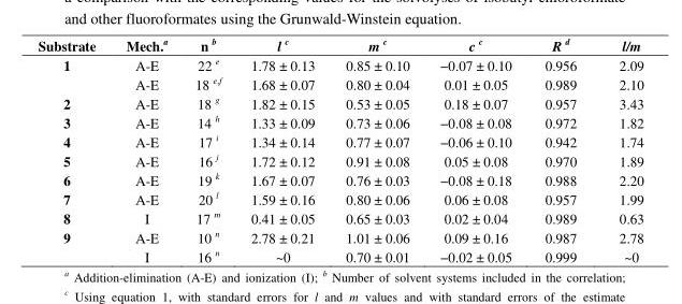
<table><thead><tr><td>Substrate</td><td>Mech.<sup>a</sup></td><td>n b</td><td>l <sup>c</sup></td><td>m <sup>c</sup></td><td>c <sup>c</sup></td><td>R <sup>d</sup></td><td>l/m</td></tr></thead><tbody><tr><td rowspan="2">1</td><td>A-E</td><td>22 e</td><td>1.78 ± 0.13</td><td>0.85 ± 0.10</td><td>−0.07 ± 0.10</td><td>0.956</td><td>2.09</td></tr><tr><td>A-E</td><td>18 e,f</td><td>1.68 ± 0.07</td><td>0.80 ± 0.04</td><td>0.01 ± 0.05</td><td>0.989</td><td>2.10</td></tr><tr><td>2</td><td>A-E</td><td>18 g</td><td>1.82 ± 0.15</td><td>0.53 ± 0.05</td><td>0.18 ± 0.07</td><td>0.957</td><td>3.43</td></tr><tr><td>3</td><td>A-E</td><td>14 h</td><td>1.33 ± 0.09</td><td>0.73 ± 0.06</td><td>−0.08 ± 0.08</td><td>0.972</td><td>1.82</td></tr><tr><td>4</td><td>A-E</td><td>17 i</td><td>1.34 ± 0.14</td><td>0.77 ± 0.07</td><td>−0.06 ± 0.10</td><td>0.942</td><td>1.74</td></tr><tr><td>5</td><td>A-E</td><td>16 j</td><td>1.72 ± 0.12</td><td>0.91 ± 0.08</td><td>0.05 ± 0.08</td><td>0.970</td><td>1.89</td></tr><tr><td>6</td><td>A-E</td><td>19 k</td><td>1.67 ± 0.07</td><td>0.76 ± 0.03</td><td>−0.08 ± 0.18</td><td>0.988</td><td>2.20</td></tr><tr><td>7</td><td>A-E</td><td>20 l</td><td>1.59 ± 0.16</td><td>0.80 ± 0.06</td><td>0.06 ± 0.08</td><td>0.957</td><td>1.99</td></tr><tr><td>8</td><td>I</td><td>17 m</td><td>0.41 ± 0.05</td><td>0.65 ± 0.03</td><td>0.02 ± 0.04</td><td>0.989</td><td>0.63</td></tr><tr><td rowspan="2">9</td><td>A-E</td><td>10 n</td><td>2.78 ± 0.21</td><td>1.01 ± 0.06</td><td>0.09 ± 0.16</td><td>0.987</td><td>2.78</td></tr><tr><td>I</td><td>16 n</td><td>~0</td><td>0.70 ± 0.01</td><td>−0.02 ± 0.05</td><td>0.999</td><td>~0</td></tr></tbody></table>